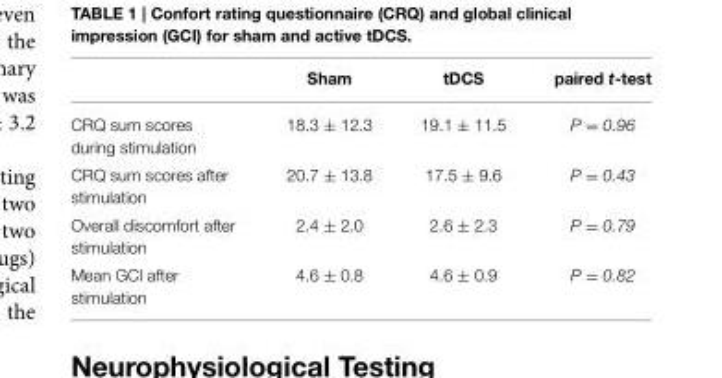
<table><thead><tr><td></td><td>Sham</td><td>tDCS</td><td>paired t-test</td></tr></thead><tbody><tr><td>CRQ sum scores during stimulation</td><td>18.3 ± 12.3</td><td>19.1 ± 11.5</td><td>P = 0.96</td></tr><tr><td>CRQ sum scores after stimulation</td><td>20.7 ± 13.8</td><td>17.5 ± 9.6</td><td>P = 0.43</td></tr><tr><td>Overall discomfort after stimulation</td><td>2.4 ± 2.0</td><td>2.6 ± 2.3</td><td>P = 0.79</td></tr><tr><td>Mean GCI after stimulation</td><td>4.6 ± 0.8</td><td>4.6 ± 0.9</td><td>P = 0.82</td></tr></tbody></table>